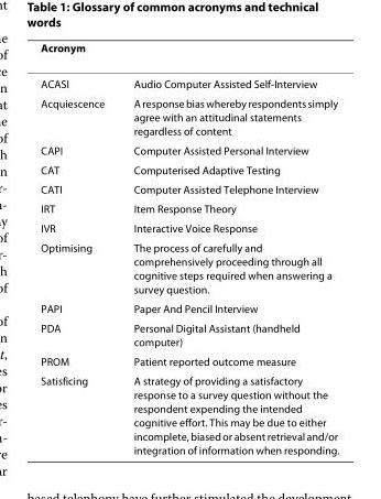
<table><thead><tr><td>Acronym</td><td></td></tr></thead><tbody><tr><td>ACASI</td><td>Audio Computer Assisted Self-Interview</td></tr><tr><td>Acquiescence</td><td>A response bias whereby respondents simply agree with an attitudinal statements regardless of content</td></tr><tr><td>CAPI</td><td>Computer Assisted Personal Interview</td></tr><tr><td>CAT</td><td>Computerised Adaptive Testing</td></tr><tr><td>CATI</td><td>Computer Assisted Telephone Interview</td></tr><tr><td>IRT</td><td>Item Response Theory</td></tr><tr><td>IVR</td><td>Interactive Voice Response</td></tr><tr><td>Optimising</td><td>The process of carefully and comprehensively proceeding through all cognitive steps required when answering a survey question.</td></tr><tr><td>PAPI</td><td>Paper And Pencil Interview</td></tr><tr><td>PDA</td><td>Personal Digital Assistant (handheld computer)</td></tr><tr><td>PROM</td><td>Patient reported outcome measure</td></tr><tr><td>Satisficing</td><td>A strategy of providing a satisfactory response to a survey question without the respondent expending the intended cognitive effort. This may be due to either incomplete, biased or absent retrieval and/or integration of information when responding.</td></tr></tbody></table>